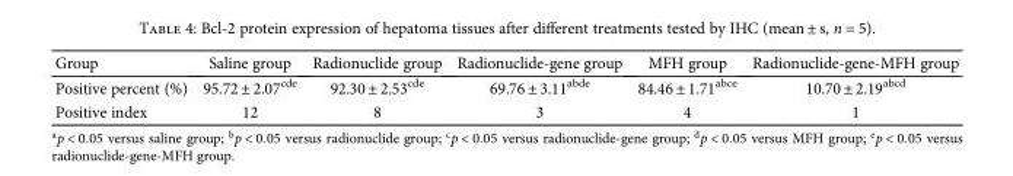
<table><thead><tr><td>Group</td><td>Saline group</td><td>Radionuclide group</td><td>Radionuclide-gene group</td><td>MFH group</td><td>Radionuclide-gene-MFH group</td></tr></thead><tbody><tr><td>Positive percent (%)</td><td>95.72 ± 2.07<sup>cde</sup></td><td>92.30 ± 2.53<sup>cde</sup></td><td>69.76 ± 3.11<sup>abde</sup></td><td>84.46 ± 1.71<sup>abce</sup></td><td>10.70 ± 2.19<sup>abcd</sup></td></tr><tr><td>Positive index</td><td>12</td><td>8</td><td>3</td><td>4</td><td>1</td></tr></tbody></table>